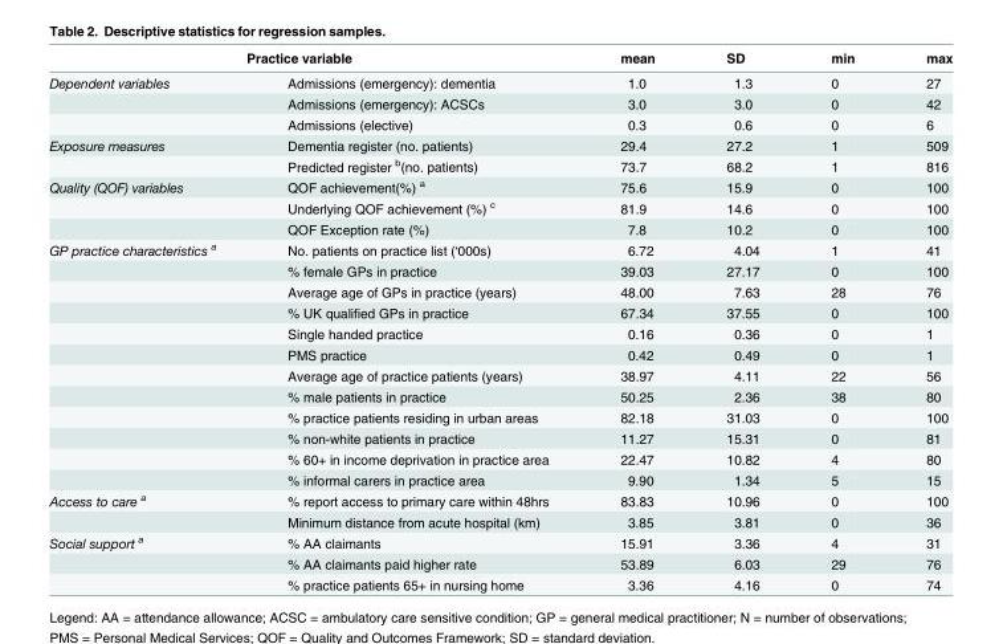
<table><thead><tr><td colspan="2">Practice variable</td><td rowspan="2">mean 1.0</td><td rowspan="2">SD 1.3</td><td rowspan="2">min 0</td><td rowspan="2">max 27</td></tr><tr><td>Dependent variables</td><td>Admissions (emergency): dementia</td></tr></thead><tbody><tr><td></td><td>Admissions (emergency): ACSCs</td><td>3.0</td><td>3.0</td><td>0</td><td>42</td></tr><tr><td></td><td>Admissions (elective)</td><td>0.3</td><td>0.6</td><td>0</td><td>6</td></tr><tr><td rowspan="2">Exposure measures</td><td>Dementia register (no. patients)</td><td>29.4</td><td>27.2</td><td>1</td><td>509</td></tr><tr><td>Predicted register <sup>b</sup>(no. patients)</td><td>73.7</td><td>68.2</td><td>1</td><td>816</td></tr><tr><td rowspan="3">Quality (QOF) variables</td><td>QOF achievement(%) <sup>a</sup></td><td>75.6</td><td>15.9</td><td>0</td><td>100</td></tr><tr><td>Underlying QOF achievement (%) <sup>c</sup></td><td>81.9</td><td>14.6</td><td>0</td><td>100</td></tr><tr><td>QOF Exception rate (%)</td><td>7.8</td><td>10.2</td><td>0</td><td>100</td></tr><tr><td rowspan="12">GP practice characteristics <sup>a</sup></td><td>No. patients on practice list (‘000s)</td><td>6.72</td><td>4.04</td><td>1</td><td>41</td></tr><tr><td>% female GPs in practice</td><td>39.03</td><td>27.17</td><td>0</td><td>100</td></tr><tr><td>Average age of GPs in practice (years)</td><td>48.00</td><td>7.63</td><td>28</td><td>76</td></tr><tr><td>% UK qualified GPs in practice</td><td>67.34</td><td>37.55</td><td>0</td><td>100</td></tr><tr><td>Single handed practice</td><td>0.16</td><td>0.36</td><td>0</td><td>1</td></tr><tr><td>PMS practice</td><td>0.42</td><td>0.49</td><td>0</td><td>1</td></tr><tr><td>Average age of practice patients (years)</td><td>38.97</td><td>4.11</td><td>22</td><td>56</td></tr><tr><td>% male patients in practice</td><td>50.25</td><td>2.36</td><td>38</td><td>80</td></tr><tr><td>% practice patients residing in urban areas</td><td>82.18</td><td>31.03</td><td>0</td><td>100</td></tr><tr><td>% non-white patients in practice</td><td>11.27</td><td>15.31</td><td>0</td><td>81</td></tr><tr><td>% 60+ in income deprivation in practice area</td><td>22.47</td><td>10.82</td><td>4</td><td>80</td></tr><tr><td>% informal carers in practice area</td><td>9.90</td><td>1.34</td><td>5</td><td>15</td></tr><tr><td rowspan="2">Access to care <sup>a</sup></td><td>% report access to primary care within 48hrs</td><td>83.83</td><td>10.96</td><td>0</td><td>100</td></tr><tr><td>Minimum distance from acute hospital (km)</td><td>3.85</td><td>3.81</td><td>0</td><td>36</td></tr><tr><td rowspan="3">Social support <sup>a</sup></td><td>% AA claimants</td><td>15.91</td><td>3.36</td><td>4</td><td>31</td></tr><tr><td>% AA claimants paid higher rate</td><td>53.89</td><td>6.03</td><td>29</td><td>76</td></tr><tr><td>% practice patients 65+ in nursing home</td><td>3.36</td><td>4.16</td><td>0</td><td>74</td></tr></tbody></table>